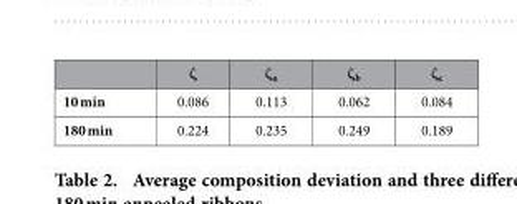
<table><thead><tr><td></td><td>ζ</td><td>ζ<sub>a</sub></td><td>ζ<sub>b</sub></td><td>ζ<sub>c</sub></td></tr></thead><tbody><tr><td>10 min</td><td>0.086</td><td>0.113</td><td>0.062</td><td>0.084</td></tr><tr><td>180 min</td><td>0.224</td><td>0.235</td><td>0.249</td><td>0.189</td></tr></tbody></table>